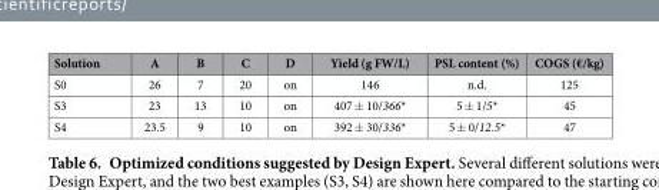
<table><thead><tr><td>Solution</td><td>A</td><td>B</td><td>C</td><td>D</td><td>Yield (g FW/L)</td><td>PSL content (%)</td><td>COGS (€/kg)</td></tr></thead><tbody><tr><td>S0</td><td>26</td><td>7</td><td>20</td><td>on</td><td>146</td><td>n.d.</td><td>125</td></tr><tr><td>S3</td><td>23</td><td>13</td><td>10</td><td>on</td><td>407 ± 10/366*</td><td>5 ± 1/5*</td><td>45</td></tr><tr><td>S4</td><td>23.5</td><td>9</td><td>10</td><td>on</td><td>392 ± 30/336*</td><td>5 ± 0/12.5*</td><td>47</td></tr></tbody></table>